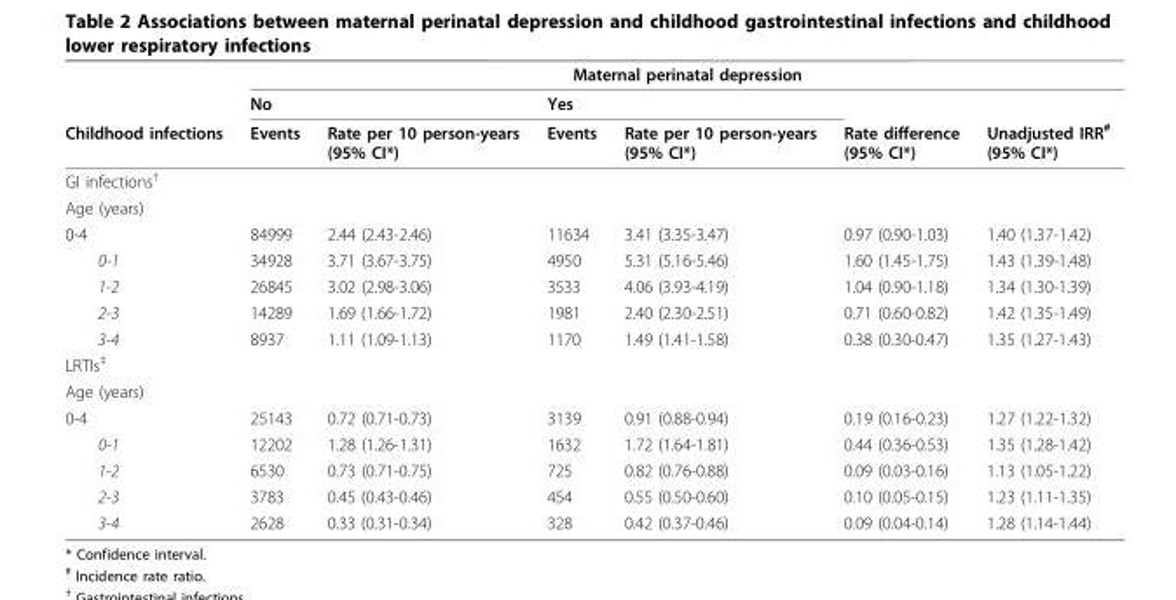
<table><thead><tr><td rowspan="3">Childhood infections</td><td colspan="6">Maternal perinatal depression</td></tr><tr><td rowspan="2">No Events</td><td rowspan="2">Rate per 10 person-years (95% CI*)</td><td rowspan="2">Yes Events</td><td rowspan="2">Rate per 10 person-years (95% CI*)</td><td rowspan="2">Rate difference (95% CI*)</td><td rowspan="2">Unadjusted IRR<sup>#</sup> (95% CI*)</td></tr><tr></tr></thead><tbody><tr><td colspan="7">GI infections<sup>†</sup></td></tr><tr><td colspan="7">Age (years)</td></tr><tr><td>0-4</td><td>84999</td><td>2.44 (2.43-2.46)</td><td>11634</td><td>3.41 (3.35-3.47)</td><td>0.97 (0.90-1.03)</td><td>1.40 (1.37-1.42)</td></tr><tr><td>0-1</td><td>34928</td><td>3.71 (3.67-3.75)</td><td>4950</td><td>5.31 (5.16-5.46)</td><td>1.60 (1.45-1.75)</td><td>1.43 (1.39-1.48)</td></tr><tr><td>1-2</td><td>26845</td><td>3.02 (2.98-3.06)</td><td>3533</td><td>4.06 (3.93-4.19)</td><td>1.04 (0.90-1.18)</td><td>1.34 (1.30-1.39)</td></tr><tr><td>2-3</td><td>14289</td><td>1.69 (1.66-1.72)</td><td>1981</td><td>2.40 (2.30-2.51)</td><td>0.71 (0.60-0.82)</td><td>1.42 (1.35-1.49)</td></tr><tr><td>3-4</td><td>8937</td><td>1.11 (1.09-1.13)</td><td>1170</td><td>1.49 (1.41-1.58)</td><td>0.38 (0.30-0.47)</td><td>1.35 (1.27-1.43)</td></tr><tr><td colspan="7">LRTIs<sup>‡</sup></td></tr><tr><td colspan="7">Age (years)</td></tr><tr><td>0-4</td><td>25143</td><td>0.72 (0.71-0.73)</td><td>3139</td><td>0.91 (0.88-0.94)</td><td>0.19 (0.16-0.23)</td><td>1.27 (1.22-1.32)</td></tr><tr><td>0-1</td><td>12202</td><td>1.28 (1.26-1.31)</td><td>1632</td><td>1.72 (1.64-1.81)</td><td>0.44 (0.36-0.53)</td><td>1.35 (1.28-1.42)</td></tr><tr><td>1-2</td><td>6530</td><td>0.73 (0.71-0.75)</td><td>725</td><td>0.82 (0.76-0.88)</td><td>0.09 (0.03-0.16)</td><td>1.13 (1.05-1.22)</td></tr><tr><td>2-3</td><td>3783</td><td>0.45 (0.43-0.46)</td><td>454</td><td>0.55 (0.50-0.60)</td><td>0.10 (0.05-0.15)</td><td>1.23 (1.11-1.35)</td></tr><tr><td>3-4</td><td>2628</td><td>0.33 (0.31-0.34)</td><td>328</td><td>0.42 (0.37-0.46)</td><td>0.09 (0.04-0.14)</td><td>1.28 (1.14-1.44)</td></tr></tbody></table>